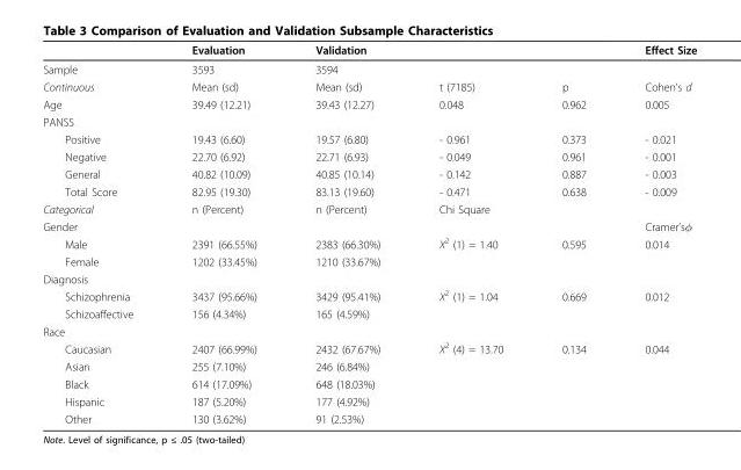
<table><thead><tr><td></td><td>Evaluation</td><td>Validation</td><td></td><td></td><td>Effect Size</td></tr></thead><tbody><tr><td>Sample</td><td>3593</td><td>3594</td><td></td><td></td><td></td></tr><tr><td>Continuous</td><td>Mean (sd)</td><td>Mean (sd)</td><td>t (7185)</td><td>p</td><td>Cohen’s d</td></tr><tr><td>Age</td><td>39.49 (12.21)</td><td>39.43 (12.27)</td><td>0.048</td><td>0.962</td><td>0.005</td></tr><tr><td colspan="6">PANSS</td></tr><tr><td>Positive</td><td>19.43 (6.60)</td><td>19.57 (6.80)</td><td>- 0.961</td><td>0.373</td><td>- 0.021</td></tr><tr><td>Negative</td><td>22.70 (6.92)</td><td>22.71 (6.93)</td><td>- 0.049</td><td>0.961</td><td>- 0.001</td></tr><tr><td>General</td><td>40.82 (10.09)</td><td>40.85 (10.14)</td><td>- 0.142</td><td>0.887</td><td>- 0.003</td></tr><tr><td>Total Score</td><td>82.95 (19.30)</td><td>83.13 (19.60)</td><td>- 0.471</td><td>0.638</td><td>- 0.009</td></tr><tr><td>Categorical</td><td>n (Percent)</td><td>n (Percent)</td><td>Chi Square</td><td></td><td></td></tr><tr><td>Gender</td><td></td><td></td><td></td><td></td><td>Cramer’sφ</td></tr><tr><td>Male</td><td>2391 (66.55%)</td><td>2383 (66.30%)</td><td>Χ<sup>2</sup> (1) = 1.40</td><td>0.595</td><td>0.014</td></tr><tr><td>Female</td><td>1202 (33.45%)</td><td>1210 (33.67%)</td><td></td><td></td><td></td></tr><tr><td colspan="6">Diagnosis</td></tr><tr><td>Schizophrenia</td><td>3437 (95.66%)</td><td>3429 (95.41%)</td><td>Χ<sup>2</sup> (1) = 1.04</td><td>0.669</td><td>0.012</td></tr><tr><td>Schizoaffective</td><td>156 (4.34%)</td><td>165 (4.59%)</td><td></td><td></td><td></td></tr><tr><td colspan="6">Race</td></tr><tr><td>Caucasian</td><td>2407 (66.99%)</td><td>2432 (67.67%)</td><td>Χ<sup>2</sup> (4) = 13.70</td><td>0.134</td><td>0.044</td></tr><tr><td>Asian</td><td>255 (7.10%)</td><td>246 (6.84%)</td><td></td><td></td><td></td></tr><tr><td>Black</td><td>614 (17.09%)</td><td>648 (18.03%)</td><td></td><td></td><td></td></tr><tr><td>Hispanic</td><td>187 (5.20%)</td><td>177 (4.92%)</td><td></td><td></td><td></td></tr><tr><td>Other</td><td>130 (3.62%)</td><td>91 (2.53%)</td><td></td><td></td><td></td></tr></tbody></table>